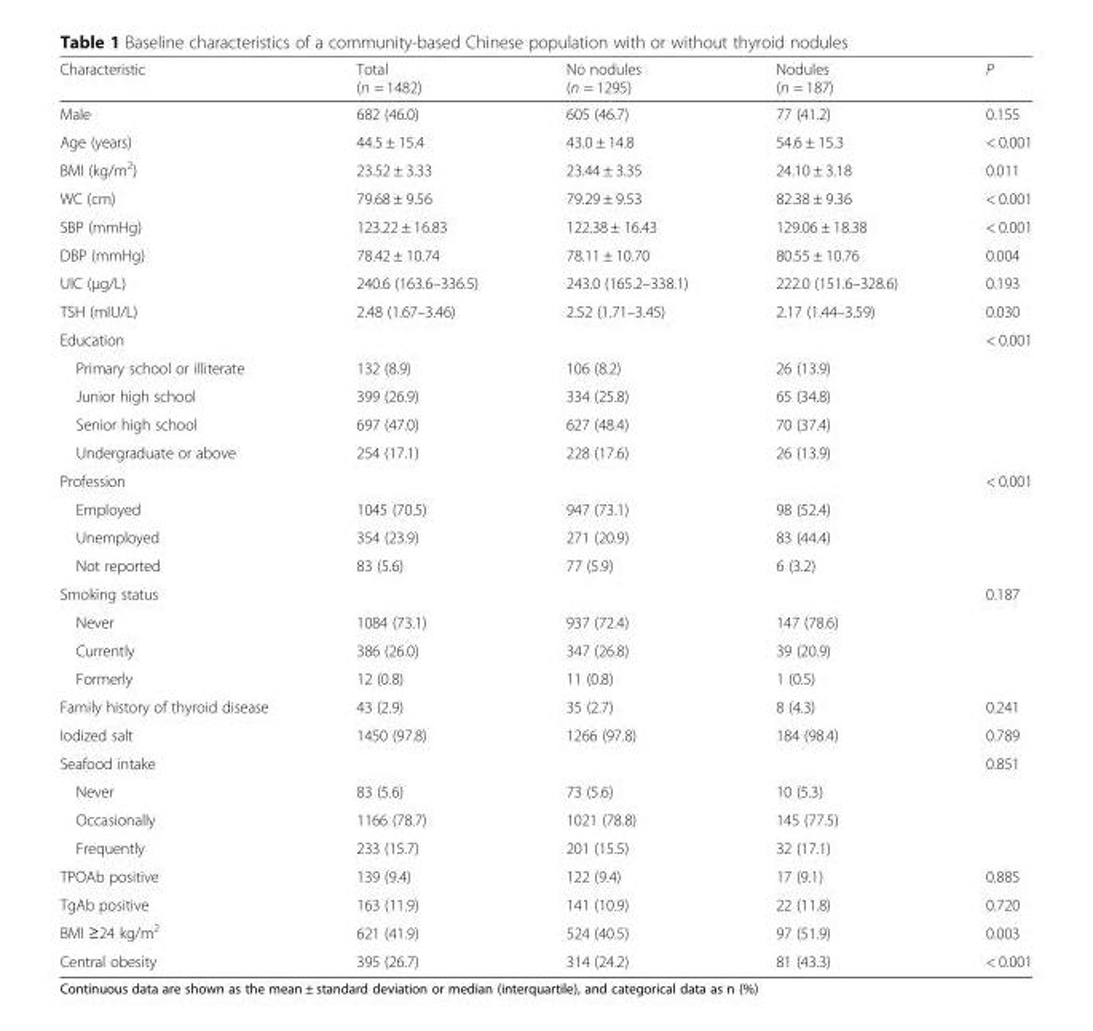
<table><thead><tr><td>Characteristic</td><td>Total (n = 1482)</td><td>No nodules (n = 1295)</td><td>Nodules (n = 187)</td><td>P</td></tr></thead><tbody><tr><td>Male</td><td>682 (46.0)</td><td>605 (46.7)</td><td>77 (41.2)</td><td>0.155</td></tr><tr><td>Age (years)</td><td>44.5 ± 15.4</td><td>43.0 ± 14.8</td><td>54.6 ± 15.3</td><td>&lt; 0.001</td></tr><tr><td>BMI (kg/m<sup>2</sup>)</td><td>23.52 ± 3.33</td><td>23.44 ± 3.35</td><td>24.10 ± 3.18</td><td>0.011</td></tr><tr><td>WC (cm)</td><td>79.68 ± 9.56</td><td>79.29 ± 9.53</td><td>82.38 ± 9.36</td><td>&lt; 0.001</td></tr><tr><td>SBP (mmHg)</td><td>123.22 ± 16.83</td><td>122.38 ± 16.43</td><td>129.06 ± 18.38</td><td>&lt; 0.001</td></tr><tr><td>DBP (mmHg)</td><td>78.42 ± 10.74</td><td>78.11 ± 10.70</td><td>80.55 ± 10.76</td><td>0.004</td></tr><tr><td>UIC (μg/L)</td><td>240.6 (163.6–336.5)</td><td>243.0 (165.2–338.1)</td><td>222.0 (151.6–328.6)</td><td>0.193</td></tr><tr><td>TSH (mIU/L)</td><td>2.48 (1.67–3.46)</td><td>2.52 (1.71–3.45)</td><td>2.17 (1.44–3.59)</td><td>0.030</td></tr><tr><td>Education</td><td></td><td></td><td></td><td>&lt; 0.001</td></tr><tr><td>Primary school or illiterate</td><td>132 (8.9)</td><td>106 (8.2)</td><td>26 (13.9)</td><td></td></tr><tr><td>Junior high school</td><td>399 (26.9)</td><td>334 (25.8)</td><td>65 (34.8)</td><td></td></tr><tr><td>Senior high school</td><td>697 (47.0)</td><td>627 (48.4)</td><td>70 (37.4)</td><td></td></tr><tr><td>Undergraduate or above</td><td>254 (17.1)</td><td>228 (17.6)</td><td>26 (13.9)</td><td></td></tr><tr><td>Profession</td><td></td><td></td><td></td><td>&lt; 0.001</td></tr><tr><td>Employed</td><td>1045 (70.5)</td><td>947 (73.1)</td><td>98 (52.4)</td><td></td></tr><tr><td>Unemployed</td><td>354 (23.9)</td><td>271 (20.9)</td><td>83 (44.4)</td><td></td></tr><tr><td>Not reported</td><td>83 (5.6)</td><td>77 (5.9)</td><td>6 (3.2)</td><td></td></tr><tr><td>Smoking status</td><td></td><td></td><td></td><td>0.187</td></tr><tr><td>Never</td><td>1084 (73.1)</td><td>937 (72.4)</td><td>147 (78.6)</td><td></td></tr><tr><td>Currently</td><td>386 (26.0)</td><td>347 (26.8)</td><td>39 (20.9)</td><td></td></tr><tr><td>Formerly</td><td>12 (0.8)</td><td>11 (0.8)</td><td>1 (0.5)</td><td></td></tr><tr><td>Family history of thyroid disease</td><td>43 (2.9)</td><td>35 (2.7)</td><td>8 (4.3)</td><td>0.241</td></tr><tr><td>Iodized salt</td><td>1450 (97.8)</td><td>1266 (97.8)</td><td>184 (98.4)</td><td>0.789</td></tr><tr><td>Seafood intake</td><td></td><td></td><td></td><td>0.851</td></tr><tr><td>Never</td><td>83 (5.6)</td><td>73 (5.6)</td><td>10 (5.3)</td><td></td></tr><tr><td>Occasionally</td><td>1166 (78.7)</td><td>1021 (78.8)</td><td>145 (77.5)</td><td></td></tr><tr><td>Frequently</td><td>233 (15.7)</td><td>201 (15.5)</td><td>32 (17.1)</td><td></td></tr><tr><td>TPOAb positive</td><td>139 (9.4)</td><td>122 (9.4)</td><td>17 (9.1)</td><td>0.885</td></tr><tr><td>TgAb positive</td><td>163 (11.9)</td><td>141 (10.9)</td><td>22 (11.8)</td><td>0.720</td></tr><tr><td>BMI ≥24 kg/m<sup>2</sup></td><td>621 (41.9)</td><td>524 (40.5)</td><td>97 (51.9)</td><td>0.003</td></tr><tr><td>Central obesity</td><td>395 (26.7)</td><td>314 (24.2)</td><td>81 (43.3)</td><td>&lt; 0.001</td></tr></tbody></table>